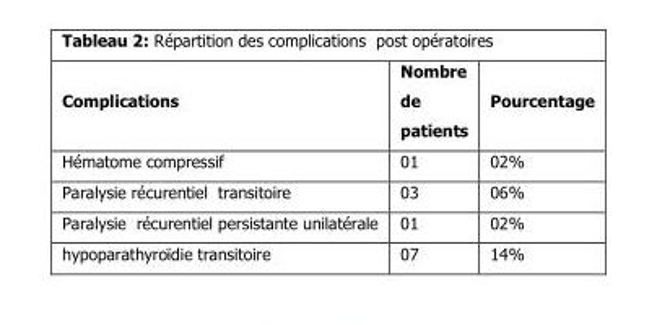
<table><thead><tr><td>Complications</td><td>Nombre de patients</td><td>Pourcentage</td></tr></thead><tbody><tr><td>Hématome compressif</td><td>01</td><td>02%</td></tr><tr><td>Paralysie récurentiel transitoire</td><td>03</td><td>06%</td></tr><tr><td>Paralysie récurentiel persistante unilatérale</td><td>01</td><td>02%</td></tr><tr><td>hypoparathyroïdie transitoire</td><td>07</td><td>14%</td></tr></tbody></table>